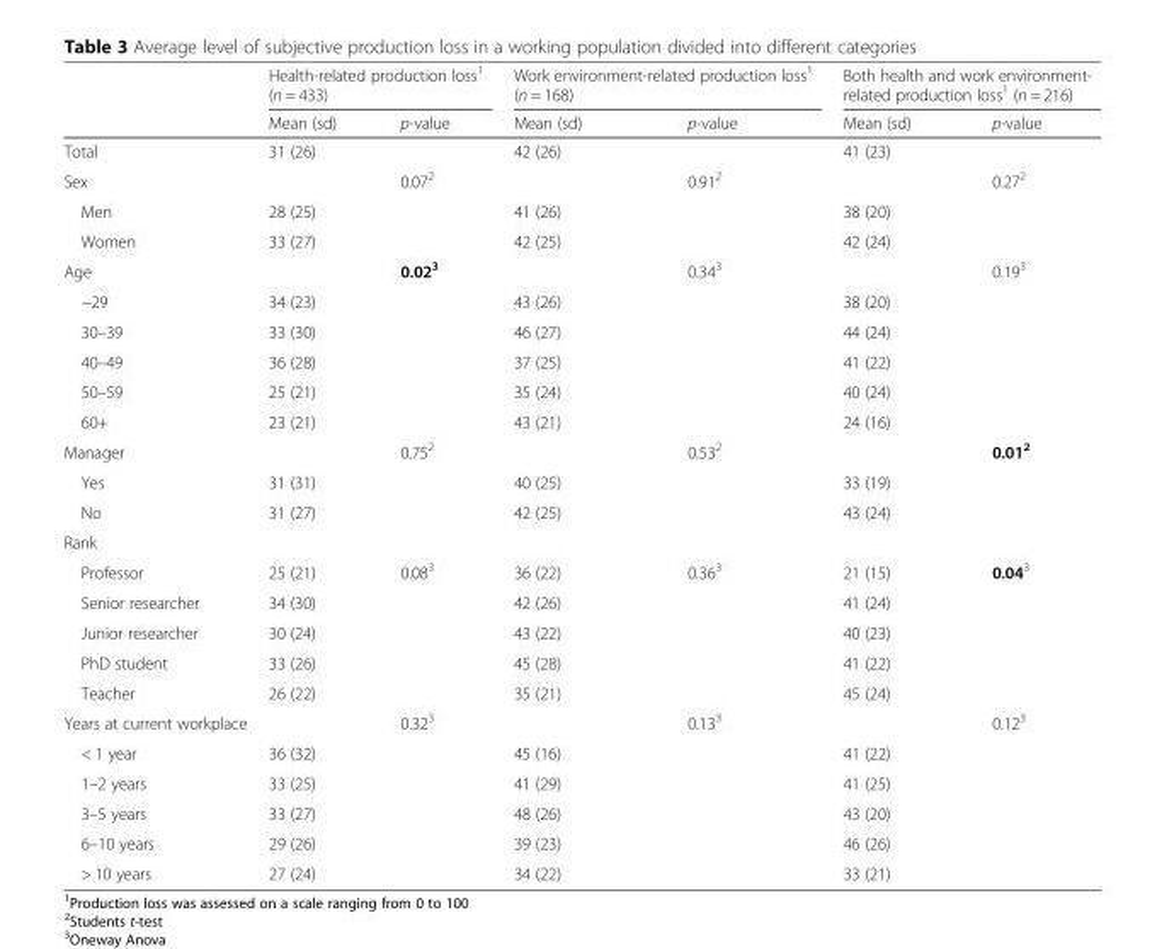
<table><thead><tr><td rowspan="2"></td><td colspan="2">Health-related production loss<sup>1</sup> (n = 433)</td><td colspan="2">Work environment-related production loss<sup>1</sup> (n = 168)</td><td colspan="2">Both health and work environment- related production loss<sup>1</sup> (n = 216)</td></tr><tr><td>Mean (sd)</td><td>p-value</td><td>Mean (sd)</td><td>p-value</td><td>Mean (sd)</td><td>p-value</td></tr></thead><tbody><tr><td>Total</td><td>31 (26)</td><td></td><td>42 (26)</td><td></td><td>41 (23)</td><td></td></tr><tr><td>Sex</td><td></td><td>0.07<sup>2</sup></td><td></td><td>0.91<sup>2</sup></td><td></td><td>0.27<sup>2</sup></td></tr><tr><td>Men</td><td>28 (25)</td><td></td><td>41 (26)</td><td></td><td>38 (20)</td><td></td></tr><tr><td>Women</td><td>33 (27)</td><td></td><td>42 (25)</td><td></td><td>42 (24)</td><td></td></tr><tr><td>Age</td><td></td><td>0.02<sup>3</sup></td><td></td><td>0.34<sup>3</sup></td><td></td><td>0.19<sup>3</sup></td></tr><tr><td>−29</td><td>34 (23)</td><td></td><td>43 (26)</td><td></td><td>38 (20)</td><td></td></tr><tr><td>30–39</td><td>33 (30)</td><td></td><td>46 (27)</td><td></td><td>44 (24)</td><td></td></tr><tr><td>40–49</td><td>36 (28)</td><td></td><td>37 (25)</td><td></td><td>41 (22)</td><td></td></tr><tr><td>50–59</td><td>25 (21)</td><td></td><td>35 (24)</td><td></td><td>40 (24)</td><td></td></tr><tr><td>60+</td><td>23 (21)</td><td></td><td>43 (21)</td><td></td><td>24 (16)</td><td></td></tr><tr><td>Manager</td><td></td><td>0.75<sup>2</sup></td><td></td><td>0.53<sup>2</sup></td><td></td><td>0.01<sup>2</sup></td></tr><tr><td>Yes</td><td>31 (31)</td><td></td><td>40 (25)</td><td></td><td>33 (19)</td><td></td></tr><tr><td>No</td><td>31 (27)</td><td></td><td>42 (25)</td><td></td><td>43 (24)</td><td></td></tr><tr><td colspan="7">Rank</td></tr><tr><td>Professor</td><td>25 (21)</td><td>0.08<sup>3</sup></td><td>36 (22)</td><td>0.36<sup>3</sup></td><td>21 (15)</td><td>0.04<sup>3</sup></td></tr><tr><td>Senior researcher</td><td>34 (30)</td><td></td><td>42 (26)</td><td></td><td>41 (24)</td><td></td></tr><tr><td>Junior researcher</td><td>30 (24)</td><td></td><td>43 (22)</td><td></td><td>40 (23)</td><td></td></tr><tr><td>PhD student</td><td>33 (26)</td><td></td><td>45 (28)</td><td></td><td>41 (22)</td><td></td></tr><tr><td>Teacher</td><td>26 (22)</td><td></td><td>35 (21)</td><td></td><td>45 (24)</td><td></td></tr><tr><td>Years at current workplace</td><td></td><td>0.32<sup>3</sup></td><td></td><td>0.13<sup>3</sup></td><td></td><td>0.12<sup>3</sup></td></tr><tr><td>&lt; 1 year</td><td>36 (32)</td><td></td><td>45 (16)</td><td></td><td>41 (22)</td><td></td></tr><tr><td>1–2 years</td><td>33 (25)</td><td></td><td>41 (29)</td><td></td><td>41 (25)</td><td></td></tr><tr><td>3–5 years</td><td>33 (27)</td><td></td><td>48 (26)</td><td></td><td>43 (20)</td><td></td></tr><tr><td>6–10 years</td><td>29 (26)</td><td></td><td>39 (23)</td><td></td><td>46 (26)</td><td></td></tr><tr><td>&gt; 10 years</td><td>27 (24)</td><td></td><td>34 (22)</td><td></td><td>33 (21)</td><td></td></tr></tbody></table>